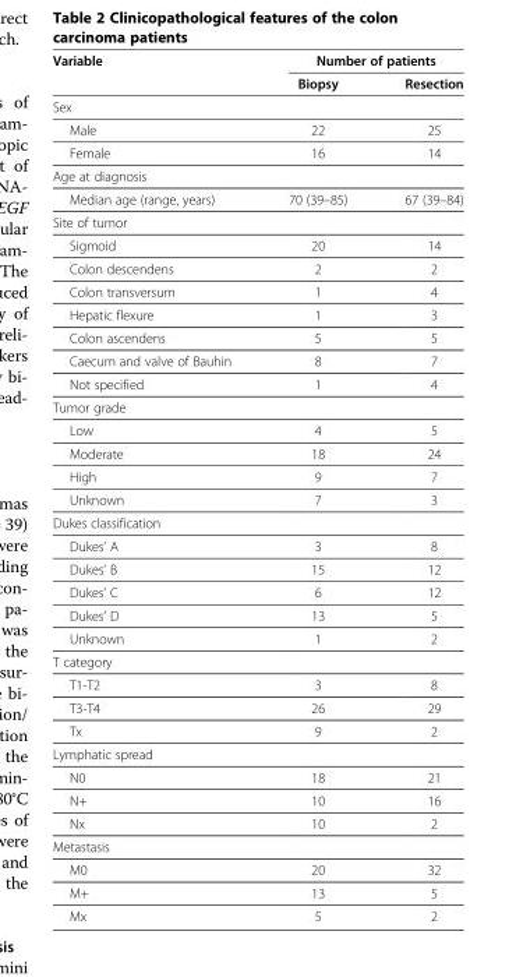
<table><thead><tr><td rowspan="2">Variable</td><td colspan="2">Number of patients</td></tr><tr><td>Biopsy</td><td>Resection</td></tr></thead><tbody><tr><td colspan="3">Sex</td></tr><tr><td>Male</td><td>22</td><td>25</td></tr><tr><td>Female</td><td>16</td><td>14</td></tr><tr><td colspan="3">Age at diagnosis</td></tr><tr><td>Median age (range, years)</td><td>70 (39–85)</td><td>67 (39–84)</td></tr><tr><td colspan="3">Site of tumor</td></tr><tr><td>Sigmoid</td><td>20</td><td>14</td></tr><tr><td>Colon descendens</td><td>2</td><td>2</td></tr><tr><td>Colon transversum</td><td>1</td><td>4</td></tr><tr><td>Hepatic flexure</td><td>1</td><td>3</td></tr><tr><td>Colon ascendens</td><td>5</td><td>5</td></tr><tr><td>Caecum and valve of Bauhin</td><td>8</td><td>7</td></tr><tr><td>Not specified</td><td>1</td><td>4</td></tr><tr><td colspan="3">Tumor grade</td></tr><tr><td>Low</td><td>4</td><td>5</td></tr><tr><td>Moderate</td><td>18</td><td>24</td></tr><tr><td>High</td><td>9</td><td>7</td></tr><tr><td>Unknown</td><td>7</td><td>3</td></tr><tr><td colspan="3">Dukes classification</td></tr><tr><td>Dukes’ A</td><td>3</td><td>8</td></tr><tr><td>Dukes’ B</td><td>15</td><td>12</td></tr><tr><td>Dukes’ C</td><td>6</td><td>12</td></tr><tr><td>Dukes’ D</td><td>13</td><td>5</td></tr><tr><td>Unknown</td><td>1</td><td>2</td></tr><tr><td colspan="3">T category</td></tr><tr><td>T1-T2</td><td>3</td><td>8</td></tr><tr><td>T3-T4</td><td>26</td><td>29</td></tr><tr><td>Tx</td><td>9</td><td>2</td></tr><tr><td colspan="3">Lymphatic spread</td></tr><tr><td>N0</td><td>18</td><td>21</td></tr><tr><td>N+</td><td>10</td><td>16</td></tr><tr><td>Nx</td><td>10</td><td>2</td></tr><tr><td colspan="3">Metastasis</td></tr><tr><td>M0</td><td>20</td><td>32</td></tr><tr><td>M+</td><td>13</td><td>5</td></tr><tr><td>Mx</td><td>5</td><td>2</td></tr></tbody></table>